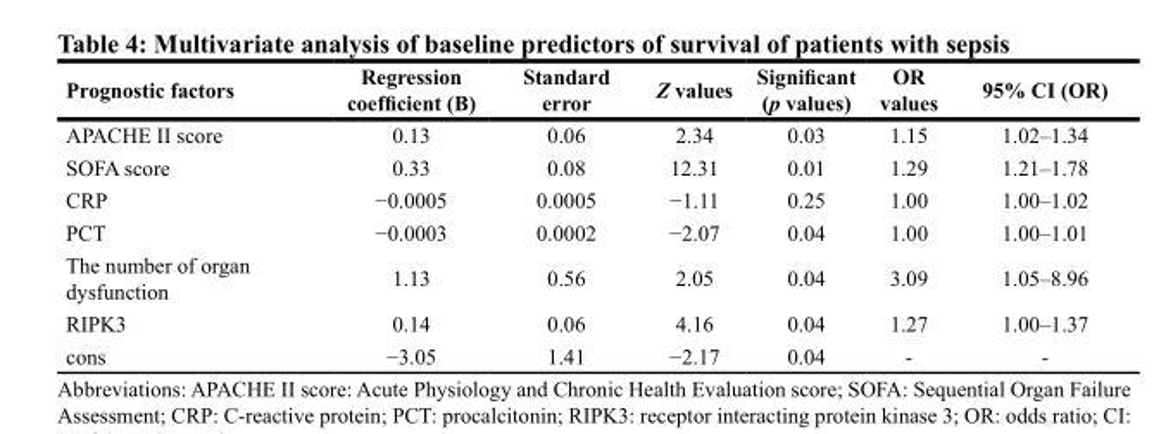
<table><thead><tr><td>Prognostic factors</td><td>Regression coefficient (B)</td><td>Standard error</td><td>Z values</td><td>Significant (p values)</td><td>OR values</td><td>95% CI (OR)</td></tr></thead><tbody><tr><td>APACHE II score</td><td>0.13</td><td>0.06</td><td>2.34</td><td>0.03</td><td>1.15</td><td>1.02–1.34</td></tr><tr><td>SOFA score</td><td>0.33</td><td>0.08</td><td>12.31</td><td>0.01</td><td>1.29</td><td>1.21–1.78</td></tr><tr><td>CRP</td><td>−0.0005</td><td>0.0005</td><td>−1.11</td><td>0.25</td><td>1.00</td><td>1.00–1.02</td></tr><tr><td>PCT</td><td>−0.0003</td><td>0.0002</td><td>−2.07</td><td>0.04</td><td>1.00</td><td>1.00–1.01</td></tr><tr><td>The number of organ dysfunction</td><td>1.13</td><td>0.56</td><td>2.05</td><td>0.04</td><td>3.09</td><td>1.05–8.96</td></tr><tr><td>RIPK3</td><td>0.14</td><td>0.06</td><td>4.16</td><td>0.04</td><td>1.27</td><td>1.00–1.37</td></tr><tr><td>cons</td><td>−3.05</td><td>1.41</td><td>−2.17</td><td>0.04</td><td>-</td><td>-</td></tr></tbody></table>